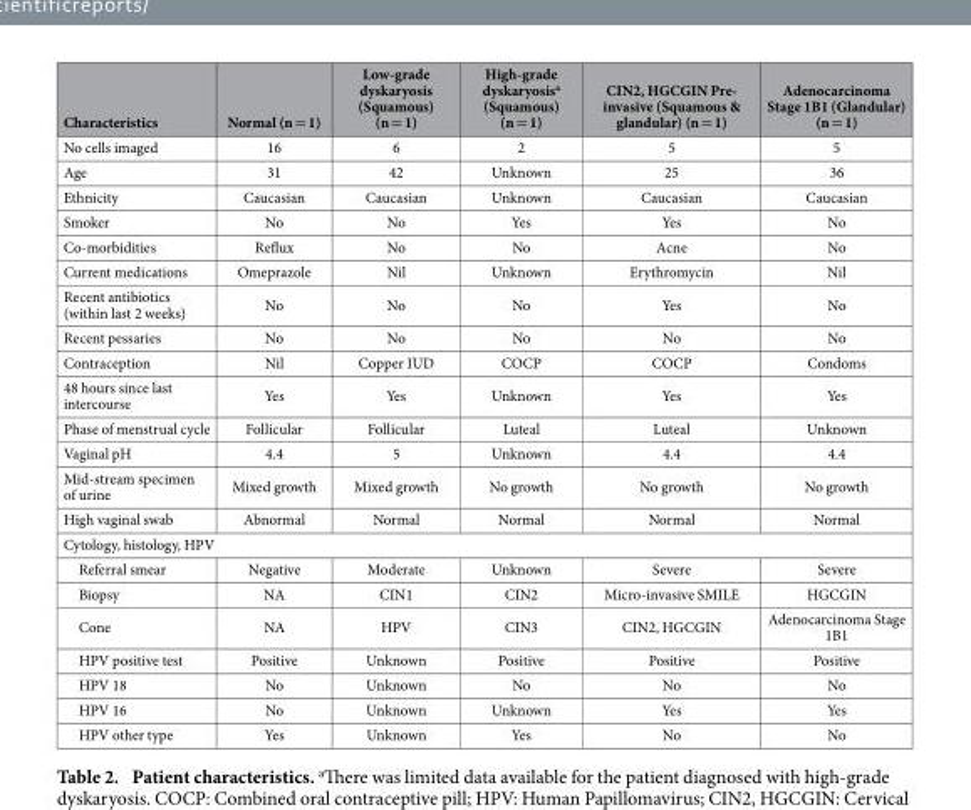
<table><thead><tr><td rowspan="2">Characteristics No cells imaged</td><td rowspan="2">Normal (n = 1) 16</td><td rowspan="2">Low-grade dyskaryosis (Squamous) (n = 1) 6</td><td rowspan="2">High-grade dyskaryosis<sup>a</sup> (Squamous) (n = 1) 2</td><td rowspan="2">CIN2, HGCGIN Pre- invasive (Squamous &amp; glandular) (n = 1) 5</td><td rowspan="2">Adenocarcinoma Stage 1B1 (Glandular) (n = 1) 5</td></tr><tr></tr></thead><tbody><tr><td>Age</td><td>31</td><td>42</td><td>Unknown</td><td>25</td><td>36</td></tr><tr><td>Ethnicity</td><td>Caucasian</td><td>Caucasian</td><td>Unknown</td><td>Caucasian</td><td>Caucasian</td></tr><tr><td>Smoker</td><td>No</td><td>No</td><td>Yes</td><td>Yes</td><td>No</td></tr><tr><td>Co-morbidities</td><td>Reflux</td><td>No</td><td>No</td><td>Acne</td><td>No</td></tr><tr><td>Current medications</td><td>Omeprazole</td><td>Nil</td><td>Unknown</td><td>Erythromycin</td><td>Nil</td></tr><tr><td>Recent antibiotics (within last 2 weeks)</td><td>No</td><td>No</td><td>No</td><td>Yes</td><td>No</td></tr><tr><td>Recent pessaries</td><td>No</td><td>No</td><td>No</td><td>No</td><td>No</td></tr><tr><td>Contraception</td><td>Nil</td><td>Copper IUD</td><td>COCP</td><td>COCP</td><td>Condoms</td></tr><tr><td>48 hours since last intercourse</td><td>Yes</td><td>Yes</td><td>Unknown</td><td>Yes</td><td>Yes</td></tr><tr><td>Phase of menstrual cycle</td><td>Follicular</td><td>Follicular</td><td>Luteal</td><td>Luteal</td><td>Unknown</td></tr><tr><td>Vaginal pH</td><td>4.4</td><td>5</td><td>Unknown</td><td>4.4</td><td>4.4</td></tr><tr><td>Mid-stream specimen of urine</td><td>Mixed growth</td><td>Mixed growth</td><td>No growth</td><td>No growth</td><td>No growth</td></tr><tr><td>High vaginal swab</td><td>Abnormal</td><td>Normal</td><td>Normal</td><td>Normal</td><td>Normal</td></tr><tr><td colspan="6">Cytology, histology, HPV</td></tr><tr><td>Referral smear</td><td>Negative</td><td>Moderate</td><td>Unknown</td><td>Severe</td><td>Severe</td></tr><tr><td>Biopsy</td><td>NA</td><td>CIN1</td><td>CIN2</td><td>Micro-invasive SMILE</td><td>HGCGIN</td></tr><tr><td>Cone</td><td>NA</td><td>HPV</td><td>CIN3</td><td>CIN2, HGCGIN</td><td>Adenocarcinoma Stage 1B1</td></tr><tr><td>HPV positive test</td><td>Positive</td><td>Unknown</td><td>Positive</td><td>Positive</td><td>Positive</td></tr><tr><td>HPV 18</td><td>No</td><td>Unknown</td><td>No</td><td>No</td><td>No</td></tr><tr><td>HPV 16</td><td>No</td><td>Unknown</td><td>Unknown</td><td>Yes</td><td>Yes</td></tr><tr><td>HPV other type</td><td>Yes</td><td>Unknown</td><td>Yes</td><td>No</td><td>No</td></tr></tbody></table>